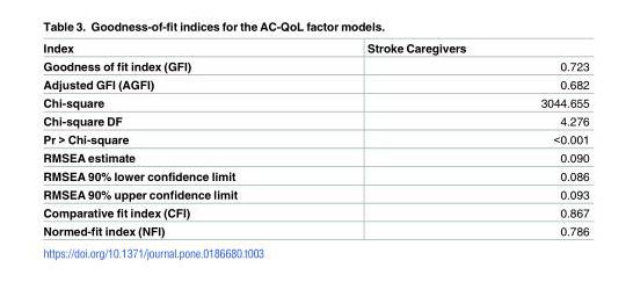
<table><thead><tr><td>Index</td><td>Stroke Caregivers</td></tr></thead><tbody><tr><td>Goodness of fit index (GFI)</td><td>0.723</td></tr><tr><td>Adjusted GFI (AGFI)</td><td>0.682</td></tr><tr><td>Chi-square</td><td>3044.655</td></tr><tr><td>Chi-square DF</td><td>4.276</td></tr><tr><td>Pr &gt; Chi-square</td><td>&lt;0.001</td></tr><tr><td>RMSEA estimate</td><td>0.090</td></tr><tr><td>RMSEA 90% lower confidence limit</td><td>0.086</td></tr><tr><td>RMSEA 90% upper confidence limit</td><td>0.093</td></tr><tr><td>Comparative fit index (CFI)</td><td>0.867</td></tr><tr><td>Normed-fit index (NFI)</td><td>0.786</td></tr></tbody></table>